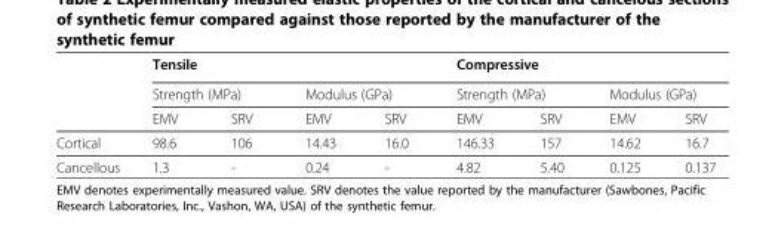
<table><thead><tr><td rowspan="3"></td><td colspan="4">Tensile</td><td colspan="4">Compressive</td></tr><tr><td colspan="2">Strength (MPa)</td><td colspan="2">Modulus (GPa)</td><td colspan="2">Strength (MPa)</td><td colspan="2">Modulus (GPa)</td></tr><tr><td>EMV</td><td>SRV</td><td>EMV</td><td>SRV</td><td>EMV</td><td>SRV</td><td>EMV</td><td>SRV</td></tr></thead><tbody><tr><td>Cortical</td><td>98.6</td><td>106</td><td>14.43</td><td>16.0</td><td>146.33</td><td>157</td><td>14.62</td><td>16.7</td></tr><tr><td>Cancellous</td><td>1.3</td><td>-</td><td>0.24</td><td>-</td><td>4.82</td><td>5.40</td><td>0.125</td><td>0.137</td></tr></tbody></table>